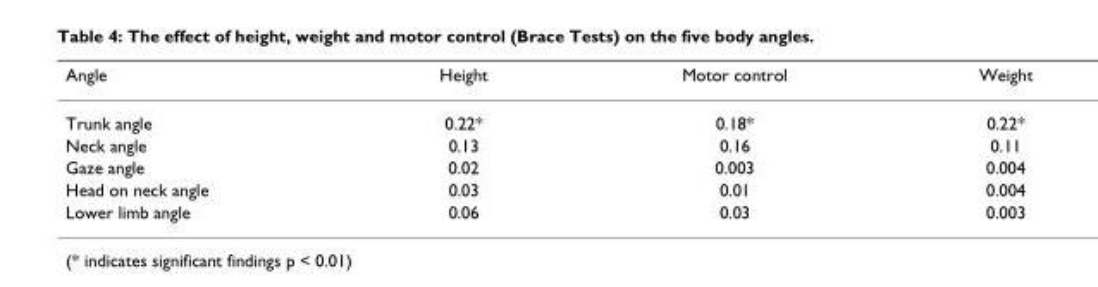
<table><thead><tr><td>Angle</td><td>Height</td><td>Motor control</td><td>Weight</td></tr></thead><tbody><tr><td>Trunk angle</td><td>0.22*</td><td>0.18*</td><td>0.22*</td></tr><tr><td>Neck angle</td><td>0.13</td><td>0.16</td><td>0.11</td></tr><tr><td>Gaze angle</td><td>0.02</td><td>0.003</td><td>0.004</td></tr><tr><td>Head on neck angle</td><td>0.03</td><td>0.01</td><td>0.004</td></tr><tr><td>Lower limb angle</td><td>0.06</td><td>0.03</td><td>0.003</td></tr></tbody></table>